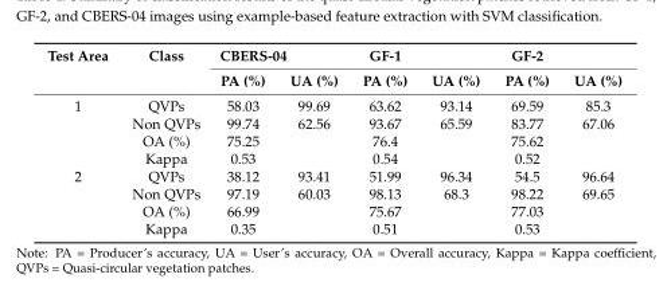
<table><thead><tr><td rowspan="2">Test Area</td><td rowspan="2">Class</td><td rowspan="2">CBERS-04 PA (%)</td><td rowspan="2">UA (%)</td><td rowspan="2">GF-1 PA (%)</td><td rowspan="2">UA (%)</td><td rowspan="2">GF-2 PA (%)</td><td rowspan="2">UA (%)</td></tr><tr></tr></thead><tbody><tr><td rowspan="4">1</td><td>QVPs</td><td>58.03</td><td>99.69</td><td>63.62</td><td>93.14</td><td>69.59</td><td>85.3</td></tr><tr><td>Non QVPs</td><td>99.74</td><td>62.56</td><td>93.67</td><td>65.59</td><td>83.77</td><td>67.06</td></tr><tr><td>OA (%)</td><td>75.25</td><td></td><td>76.4</td><td></td><td>75.62</td><td></td></tr><tr><td>Kappa</td><td>0.53</td><td></td><td>0.54</td><td></td><td>0.52</td><td></td></tr><tr><td rowspan="4">2</td><td>QVPs</td><td>38.12</td><td>93.41</td><td>51.99</td><td>96.34</td><td>54.5</td><td>96.64</td></tr><tr><td>Non QVPs</td><td>97.19</td><td>60.03</td><td>98.13</td><td>68.3</td><td>98.22</td><td>69.65</td></tr><tr><td>OA (%)</td><td>66.99</td><td></td><td>75.67</td><td></td><td>77.03</td><td></td></tr><tr><td>Kappa</td><td>0.35</td><td></td><td>0.51</td><td></td><td>0.53</td><td></td></tr></tbody></table>